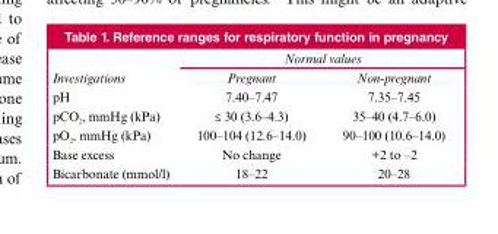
<table><thead><tr><td rowspan="2">Investigations</td><td colspan="2">Normal values</td></tr><tr><td>Pregnant</td><td>Non-pregnant</td></tr></thead><tbody><tr><td>pH</td><td>7.40–7.47</td><td>7.35–7.45</td></tr><tr><td>pCO<sub>2</sub>, mmHg (kPa)</td><td>≤ 30 (3.6–4.3)</td><td>35–40 (4.7–6.0)</td></tr><tr><td>pO<sub>2</sub>, mmHg (kPa)</td><td>100–104 (12.6–14.0)</td><td>90–100 (10.6–14.0)</td></tr><tr><td>Base excess</td><td>No change</td><td>+2 to –2</td></tr><tr><td>Bicarbonate (mmol/l)</td><td>18–22</td><td>20–28</td></tr></tbody></table>